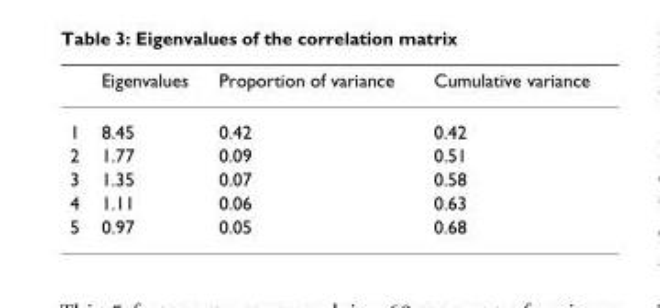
<table><thead><tr><td></td><td>Eigenvalues</td><td>Proportion of variance</td><td>Cumulative variance</td></tr></thead><tbody><tr><td>1</td><td>8.45</td><td>0.42</td><td>0.42</td></tr><tr><td>2</td><td>1.77</td><td>0.09</td><td>0.51</td></tr><tr><td>3</td><td>1.35</td><td>0.07</td><td>0.58</td></tr><tr><td>4</td><td>1.11</td><td>0.06</td><td>0.63</td></tr><tr><td>5</td><td>0.97</td><td>0.05</td><td>0.68</td></tr></tbody></table>